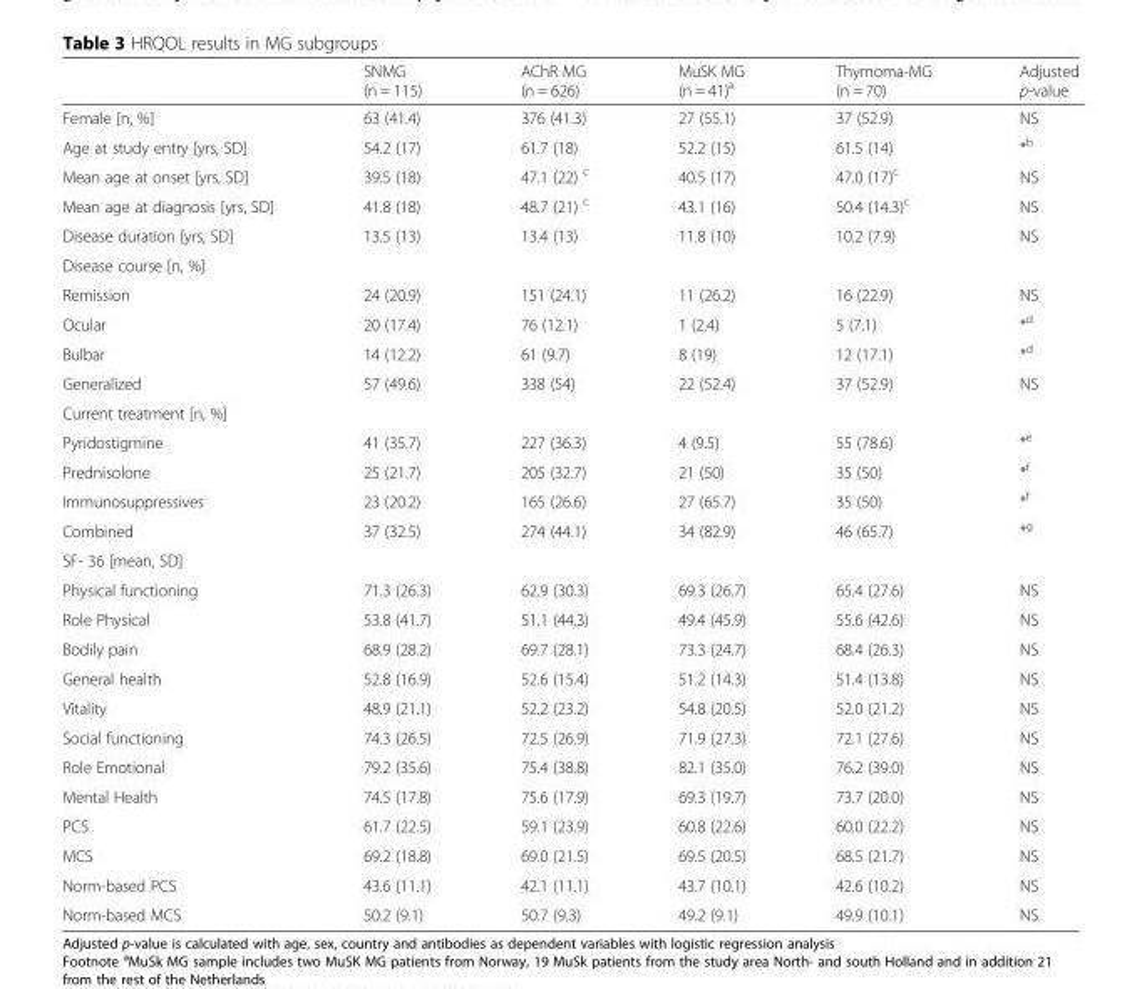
<table><thead><tr><td></td><td>SNMG (n = 115)</td><td>AChR MG (n = 626)</td><td>MuSK MG (n = 41)<sup>a</sup></td><td>Thymoma-MG (n = 70)</td><td>Adjusted p-value</td></tr></thead><tbody><tr><td>Female [n, %]</td><td>63 (41.4)</td><td>376 (41.3)</td><td>27 (55.1)</td><td>37 (52.9)</td><td>NS</td></tr><tr><td>Age at study entry [yrs, SD]</td><td>54.2 (17)</td><td>61.7 (18)</td><td>52.2 (15)</td><td>61.5 (14)</td><td>*<sup>b</sup></td></tr><tr><td>Mean age at onset [yrs, SD]</td><td>39.5 (18)</td><td>47.1 (22) <sup>c</sup></td><td>40.5 (17)</td><td>47.0 (17)<sup>c</sup></td><td>NS</td></tr><tr><td>Mean age at diagnosis [yrs, SD]</td><td>41.8 (18)</td><td>48.7 (21) <sup>c</sup></td><td>43.1 (16)</td><td>50.4 (14.3)<sup>c</sup></td><td>NS</td></tr><tr><td>Disease duration [yrs, SD]</td><td>13.5 (13)</td><td>13.4 (13)</td><td>11.8 (10)</td><td>10.2 (7.9)</td><td>NS</td></tr><tr><td colspan="6">Disease course [n, %]</td></tr><tr><td>Remission</td><td>24 (20.9)</td><td>151 (24.1)</td><td>11 (26.2)</td><td>16 (22.9)</td><td>NS</td></tr><tr><td>Ocular</td><td>20 (17.4)</td><td>76 (12.1)</td><td>1 (2.4)</td><td>5 (7.1)</td><td>*<sup>d</sup></td></tr><tr><td>Bulbar</td><td>14 (12.2)</td><td>61 (9.7)</td><td>8 (19)</td><td>12 (17.1)</td><td>*<sup>d</sup></td></tr><tr><td>Generalized</td><td>57 (49.6)</td><td>338 (54)</td><td>22 (52.4)</td><td>37 (52.9)</td><td>NS</td></tr><tr><td colspan="6">Current treatment [n, %]</td></tr><tr><td>Pyridostigmine</td><td>41 (35.7)</td><td>227 (36.3)</td><td>4 (9.5)</td><td>55 (78.6)</td><td>*<sup>e</sup></td></tr><tr><td>Prednisolone</td><td>25 (21.7)</td><td>205 (32.7)</td><td>21 (50)</td><td>35 (50)</td><td>*<sup>f</sup></td></tr><tr><td>Immunosuppressives</td><td>23 (20.2)</td><td>165 (26.6)</td><td>27 (65.7)</td><td>35 (50)</td><td>*<sup>f</sup></td></tr><tr><td>Combined</td><td>37 (32.5)</td><td>274 (44.1)</td><td>34 (82.9)</td><td>46 (65.7)</td><td>*<sup>g</sup></td></tr><tr><td colspan="6">SF- 36 [mean, SD]</td></tr><tr><td>Physical functioning</td><td>71.3 (26.3)</td><td>62.9 (30.3)</td><td>69.3 (26.7)</td><td>65.4 (27.6)</td><td>NS</td></tr><tr><td>Role Physical</td><td>53.8 (41.7)</td><td>51.1 (44.3)</td><td>49.4 (45.9)</td><td>55.6 (42.6)</td><td>NS</td></tr><tr><td>Bodily pain</td><td>68.9 (28.2)</td><td>69.7 (28.1)</td><td>73.3 (24.7)</td><td>68.4 (26.3)</td><td>NS</td></tr><tr><td>General health</td><td>52.8 (16.9)</td><td>52.6 (15.4)</td><td>51.2 (14.3)</td><td>51.4 (13.8)</td><td>NS</td></tr><tr><td>Vitality</td><td>48.9 (21.1)</td><td>52.2 (23.2)</td><td>54.8 (20.5)</td><td>52.0 (21.2)</td><td>NS</td></tr><tr><td>Social functioning</td><td>74.3 (26.5)</td><td>72.5 (26.9)</td><td>71.9 (27.3)</td><td>72.1 (27.6)</td><td>NS</td></tr><tr><td>Role Emotional</td><td>79.2 (35.6)</td><td>75.4 (38.8)</td><td>82.1 (35.0)</td><td>76.2 (39.0)</td><td>NS</td></tr><tr><td>Mental Health</td><td>74.5 (17.8)</td><td>75.6 (17.9)</td><td>69.3 (19.7)</td><td>73.7 (20.0)</td><td>NS</td></tr><tr><td>PCS</td><td>61.7 (22.5)</td><td>59.1 (23.9)</td><td>60.8 (22.6)</td><td>60.0 (22.2)</td><td>NS</td></tr><tr><td>MCS</td><td>69.2 (18.8)</td><td>69.0 (21.5)</td><td>69.5 (20.5)</td><td>68.5 (21.7)</td><td>NS</td></tr><tr><td>Norm-based PCS</td><td>43.6 (11.1)</td><td>42.1 (11.1)</td><td>43.7 (10.1)</td><td>42.6 (10.2)</td><td>NS</td></tr><tr><td>Norm-based MCS</td><td>50.2 (9.1)</td><td>50.7 (9.3)</td><td>49.2 (9.1)</td><td>49.9 (10.1)</td><td>NS</td></tr></tbody></table>